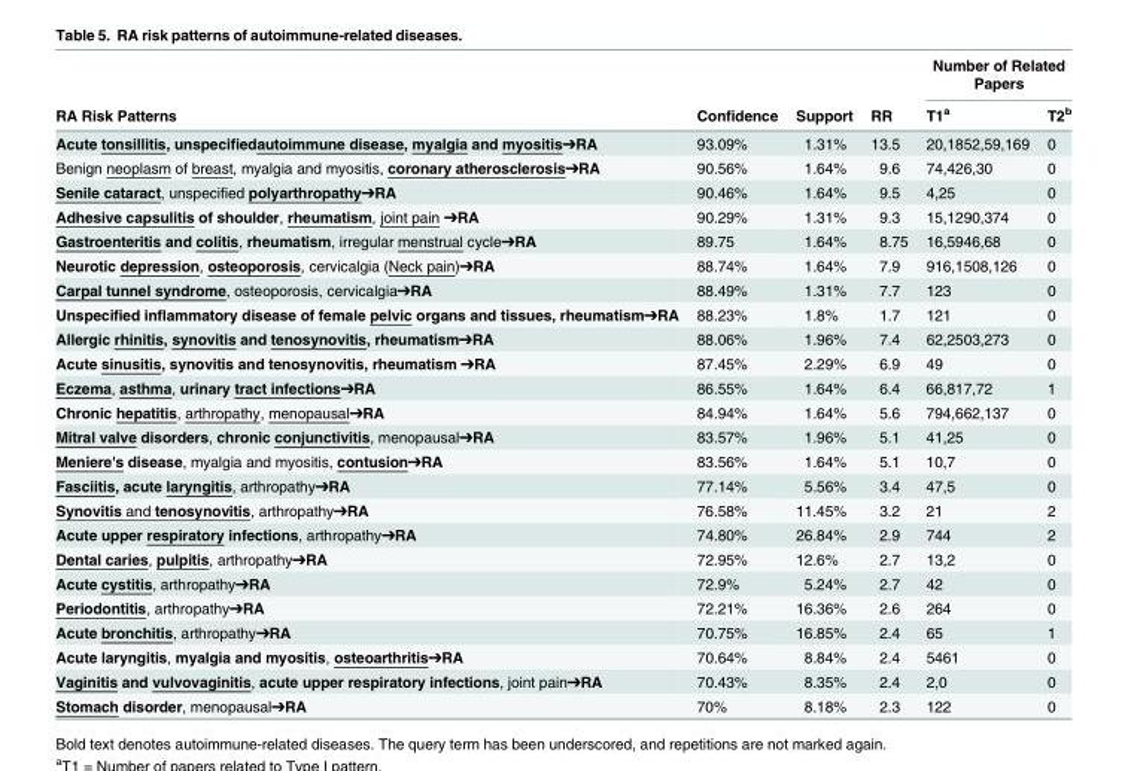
<table><thead><tr><td rowspan="2">RA Risk Patterns</td><td rowspan="2">Confidence</td><td rowspan="2">Support</td><td rowspan="2">RR</td><td colspan="2">Number of Related Papers</td></tr><tr><td>T1<sup>a</sup></td><td>T2<sup>b</sup></td></tr></thead><tbody><tr><td>Acute tonsillitis, unspecifiedautoimmune disease, myalgia and myositis➔RA</td><td>93.09%</td><td>1.31%</td><td>13.5</td><td>20,1852,59,169</td><td>0</td></tr><tr><td>Benign neoplasm of breast, myalgia and myositis, coronary atherosclerosis➔RA</td><td>90.56%</td><td>1.64%</td><td>9.6</td><td>74,426,30</td><td>0</td></tr><tr><td>Senile cataract, unspecified polyarthropathy➔RA</td><td>90.46%</td><td>1.64%</td><td>9.5</td><td>4,25</td><td>0</td></tr><tr><td>Adhesive capsulitis of shoulder, rheumatism, joint pain ➔RA</td><td>90.29%</td><td>1.31%</td><td>9.3</td><td>15,1290,374</td><td>0</td></tr><tr><td>Gastroenteritis and colitis, rheumatism, irregular menstrual cycle➔RA</td><td>89.75</td><td>1.64%</td><td>8.75</td><td>16,5946,68</td><td>0</td></tr><tr><td>Neurotic depression, osteoporosis, cervicalgia (Neck pain)➔RA</td><td>88.74%</td><td>1.64%</td><td>7.9</td><td>916,1508,126</td><td>0</td></tr><tr><td>Carpal tunnel syndrome, osteoporosis, cervicalgia➔RA</td><td>88.49%</td><td>1.31%</td><td>7.7</td><td>123</td><td>0</td></tr><tr><td>Unspecified inflammatory disease of female pelvic organs and tissues, rheumatism➔RA</td><td>88.23%</td><td>1.8%</td><td>1.7</td><td>121</td><td>0</td></tr><tr><td>Allergic rhinitis, synovitis and tenosynovitis, rheumatism➔RA</td><td>88.06%</td><td>1.96%</td><td>7.4</td><td>62,2503,273</td><td>0</td></tr><tr><td>Acute sinusitis, synovitis and tenosynovitis, rheumatism ➔RA</td><td>87.45%</td><td>2.29%</td><td>6.9</td><td>49</td><td>0</td></tr><tr><td>Eczema, asthma, urinary tract infections➔RA</td><td>86.55%</td><td>1.64%</td><td>6.4</td><td>66,817,72</td><td>1</td></tr><tr><td>Chronic hepatitis, arthropathy, menopausal➔RA</td><td>84.94%</td><td>1.64%</td><td>5.6</td><td>794,662,137</td><td>0</td></tr><tr><td>Mitral valve disorders, chronic conjunctivitis, menopausal➔RA</td><td>83.57%</td><td>1.96%</td><td>5.1</td><td>41,25</td><td>0</td></tr><tr><td>Meniere&#x27;s disease, myalgia and myositis, contusion➔RA</td><td>83.56%</td><td>1.64%</td><td>5.1</td><td>10,7</td><td>0</td></tr><tr><td>Fasciitis, acute laryngitis, arthropathy➔RA</td><td>77.14%</td><td>5.56%</td><td>3.4</td><td>47,5</td><td>0</td></tr><tr><td>Synovitis and tenosynovitis, arthropathy➔RA</td><td>76.58%</td><td>11.45%</td><td>3.2</td><td>21</td><td>2</td></tr><tr><td>Acute upper respiratory infections, arthropathy➔RA</td><td>74.80%</td><td>26.84%</td><td>2.9</td><td>744</td><td>2</td></tr><tr><td>Dental caries, pulpitis, arthropathy➔RA</td><td>72.95%</td><td>12.6%</td><td>2.7</td><td>13,2</td><td>0</td></tr><tr><td>Acute cystitis, arthropathy➔RA</td><td>72.9%</td><td>5.24%</td><td>2.7</td><td>42</td><td>0</td></tr><tr><td>Periodontitis, arthropathy➔RA</td><td>72.21%</td><td>16.36%</td><td>2.6</td><td>264</td><td>0</td></tr><tr><td>Acute bronchitis, arthropathy➔RA</td><td>70.75%</td><td>16.85%</td><td>2.4</td><td>65</td><td>1</td></tr><tr><td>Acute laryngitis, myalgia and myositis, osteoarthritis➔RA</td><td>70.64%</td><td>8.84%</td><td>2.4</td><td>5461</td><td>0</td></tr><tr><td>Vaginitis and vulvovaginitis, acute upper respiratory infections, joint pain➔RA</td><td>70.43%</td><td>8.35%</td><td>2.4</td><td>2,0</td><td>0</td></tr><tr><td>Stomach disorder, menopausal➔RA</td><td>70%</td><td>8.18%</td><td>2.3</td><td>122</td><td>0</td></tr></tbody></table>